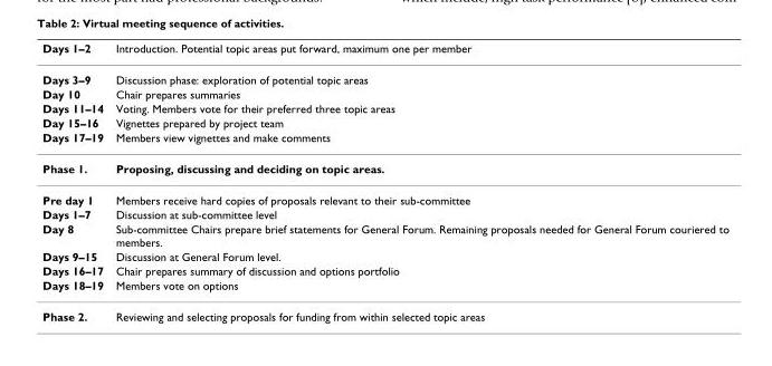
<table><thead><tr><td>Days 1–2</td><td>Introduction. Potential topic areas put forward, maximum one per member</td></tr></thead><tbody><tr><td>Days 3–9</td><td>Discussion phase: exploration of potential topic areas</td></tr><tr><td>Day 10</td><td>Chair prepares summaries</td></tr><tr><td>Days 11–14</td><td>Voting. Members vote for their preferred three topic areas</td></tr><tr><td>Day 15–16</td><td>Vignettes prepared by project team</td></tr><tr><td>Days 17–19</td><td>Members view vignettes and make comments</td></tr><tr><td>Phase 1.</td><td>Proposing, discussing and deciding on topic areas.</td></tr><tr><td>Pre day 1</td><td>Members receive hard copies of proposals relevant to their sub-committee</td></tr><tr><td>Days 1–7</td><td>Discussion at sub-committee level</td></tr><tr><td>Day 8</td><td>Sub-committee Chairs prepare brief statements for General Forum. Remaining proposals needed for General Forum couriered to members.</td></tr><tr><td>Days 9–15</td><td>Discussion at General Forum level.</td></tr><tr><td>Days 16–17</td><td>Chair prepares summary of discussion and options portfolio</td></tr><tr><td>Days 18–19</td><td>Members vote on options</td></tr><tr><td>Phase 2.</td><td>Reviewing and selecting proposals for funding from within selected topic areas</td></tr></tbody></table>